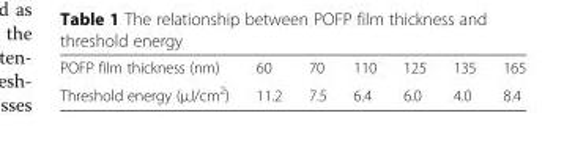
<table><tbody><tr><td>POFP film thickness (nm)</td><td>60</td><td>70</td><td>110</td><td>125</td><td>135</td><td>165</td></tr><tr><td>Threshold energy (μJ/cm<sup>2</sup>)</td><td>11.2</td><td>7.5</td><td>6.4</td><td>6.0</td><td>4.0</td><td>8.4</td></tr></tbody></table>